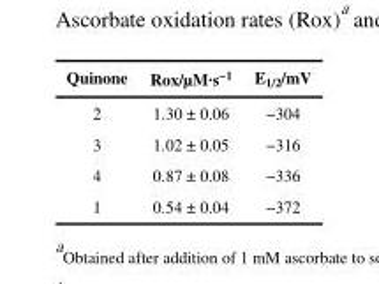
<table><thead><tr><td>Quinone</td><td>Rox/μM·s<sup>−1</sup></td><td>E<sub>1/2</sub>/mV</td></tr></thead><tbody><tr><td>2</td><td>1.30 ± 0.06</td><td>−304</td></tr><tr><td>3</td><td>1.02 ± 0.05</td><td>−316</td></tr><tr><td>4</td><td>0.87 ± 0.08</td><td>−336</td></tr><tr><td>1</td><td>0.54 ± 0.04</td><td>−372</td></tr></tbody></table>